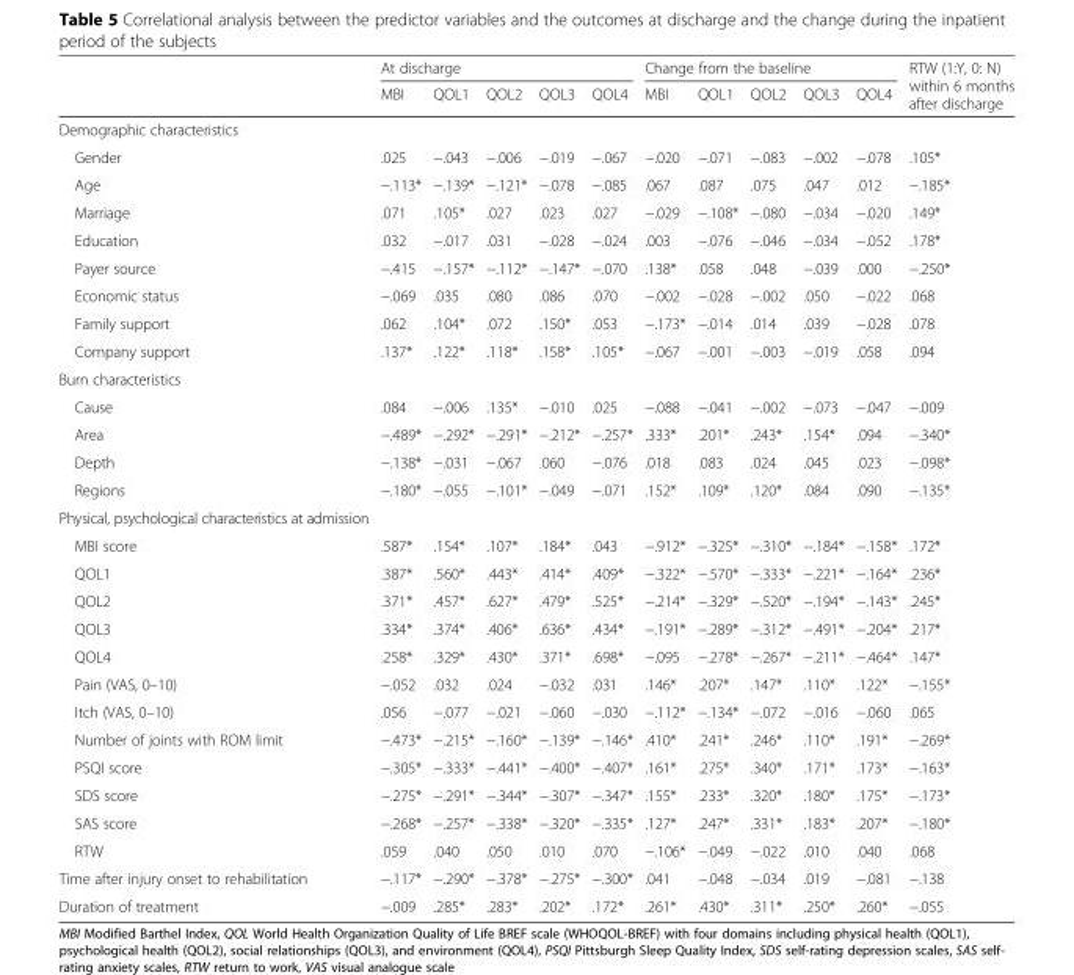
<table><thead><tr><td rowspan="2"></td><td colspan="5">At discharge</td><td colspan="5">Change from the baseline</td><td rowspan="2">RTW (1:Y, 0: N) within 6 months after discharge</td></tr><tr><td>MBI</td><td>QOL1</td><td>QOL2</td><td>QOL3</td><td>QOL4</td><td>MBI</td><td>QOL1</td><td>QOL2</td><td>QOL3</td><td>QOL4</td></tr></thead><tbody><tr><td colspan="12">Demographic characteristics</td></tr><tr><td>Gender</td><td>.025</td><td>−.043</td><td>−.006</td><td>−.019</td><td>−.067</td><td>−.020</td><td>−.071</td><td>−.083</td><td>−.002</td><td>−.078</td><td>.105*</td></tr><tr><td>Age</td><td>−.113*</td><td>−.139*</td><td>−.121*</td><td>−.078</td><td>−.085</td><td>.067</td><td>.087</td><td>.075</td><td>.047</td><td>.012</td><td>−.185*</td></tr><tr><td>Marriage</td><td>.071</td><td>.105*</td><td>.027</td><td>.023</td><td>.027</td><td>−.029</td><td>−.108*</td><td>−.080</td><td>−.034</td><td>−.020</td><td>.149*</td></tr><tr><td>Education</td><td>.032</td><td>−.017</td><td>.031</td><td>−.028</td><td>−.024</td><td>.003</td><td>−.076</td><td>−.046</td><td>−.034</td><td>−.052</td><td>.178*</td></tr><tr><td>Payer source</td><td>−.415</td><td>−.157*</td><td>−.112*</td><td>−.147*</td><td>−.070</td><td>.138*</td><td>.058</td><td>.048</td><td>−.039</td><td>.000</td><td>−.250*</td></tr><tr><td>Economic status</td><td>−.069</td><td>.035</td><td>.080</td><td>.086</td><td>.070</td><td>−.002</td><td>−.028</td><td>−.002</td><td>.050</td><td>−.022</td><td>.068</td></tr><tr><td>Family support</td><td>.062</td><td>.104*</td><td>.072</td><td>.150*</td><td>.053</td><td>−.173*</td><td>−.014</td><td>.014</td><td>.039</td><td>−.028</td><td>.078</td></tr><tr><td>Company support</td><td>.137*</td><td>.122*</td><td>.118*</td><td>.158*</td><td>.105*</td><td>−.067</td><td>−.001</td><td>−.003</td><td>−.019</td><td>.058</td><td>.094</td></tr><tr><td colspan="12">Burn characteristics</td></tr><tr><td>Cause</td><td>.084</td><td>−.006</td><td>.135*</td><td>−.010</td><td>.025</td><td>−.088</td><td>−.041</td><td>−.002</td><td>−.073</td><td>−.047</td><td>−.009</td></tr><tr><td>Area</td><td>−.489*</td><td>−.292*</td><td>−.291*</td><td>−.212*</td><td>−.257*</td><td>.333*</td><td>.201*</td><td>.243*</td><td>.154*</td><td>.094</td><td>−.340*</td></tr><tr><td>Depth</td><td>−.138*</td><td>−.031</td><td>−.067</td><td>.060</td><td>−.076</td><td>.018</td><td>.083</td><td>.024</td><td>.045</td><td>.023</td><td>−.098*</td></tr><tr><td>Regions</td><td>−.180*</td><td>−.055</td><td>−.101*</td><td>−.049</td><td>−.071</td><td>.152*</td><td>.109*</td><td>.120*</td><td>.084</td><td>.090</td><td>−.135*</td></tr><tr><td colspan="12">Physical, psychological characteristics at admission</td></tr><tr><td>MBI score</td><td>.587*</td><td>.154*</td><td>.107*</td><td>.184*</td><td>.043</td><td>−.912*</td><td>−.325*</td><td>−.310*</td><td>−.184*</td><td>−.158*</td><td>.172*</td></tr><tr><td>QOL1</td><td>.387*</td><td>.560*</td><td>.443*</td><td>.414*</td><td>.409*</td><td>−.322*</td><td>−.570*</td><td>−.333*</td><td>−.221*</td><td>−.164*</td><td>.236*</td></tr><tr><td>QOL2</td><td>.371*</td><td>.457*</td><td>.627*</td><td>.479*</td><td>.525*</td><td>−.214*</td><td>−.329*</td><td>−.520*</td><td>−.194*</td><td>−.143*</td><td>.245*</td></tr><tr><td>QOL3</td><td>.334*</td><td>.374*</td><td>.406*</td><td>.636*</td><td>.434*</td><td>−.191*</td><td>−.289*</td><td>−.312*</td><td>−.491*</td><td>−.204*</td><td>.217*</td></tr><tr><td>QOL4</td><td>.258*</td><td>.329*</td><td>.430*</td><td>.371*</td><td>.698*</td><td>−.095</td><td>−.278*</td><td>−.267*</td><td>−.211*</td><td>−.464*</td><td>.147*</td></tr><tr><td>Pain (VAS, 0–10)</td><td>−.052</td><td>.032</td><td>.024</td><td>−.032</td><td>.031</td><td>.146*</td><td>.207*</td><td>.147*</td><td>.110*</td><td>.122*</td><td>−.155*</td></tr><tr><td>Itch (VAS, 0–10)</td><td>.056</td><td>−.077</td><td>−.021</td><td>−.060</td><td>−.030</td><td>−.112*</td><td>−.134*</td><td>−.072</td><td>−.016</td><td>−.060</td><td>.065</td></tr><tr><td>Number of joints with ROM limit</td><td>−.473*</td><td>−.215*</td><td>−.160*</td><td>−.139*</td><td>−.146*</td><td>.410*</td><td>.241*</td><td>.246*</td><td>.110*</td><td>.191*</td><td>−.269*</td></tr><tr><td>PSQI score</td><td>−.305*</td><td>−.333*</td><td>−.441*</td><td>−.400*</td><td>−.407*</td><td>.161*</td><td>.275*</td><td>.340*</td><td>.171*</td><td>.173*</td><td>−.163*</td></tr><tr><td>SDS score</td><td>−.275*</td><td>−.291*</td><td>−.344*</td><td>−.307*</td><td>−.347*</td><td>.155*</td><td>.233*</td><td>.320*</td><td>.180*</td><td>.175*</td><td>−.173*</td></tr><tr><td>SAS score</td><td>−.268*</td><td>−.257*</td><td>−.338*</td><td>−.320*</td><td>−.335*</td><td>.127*</td><td>.247*</td><td>.331*</td><td>.183*</td><td>.207*</td><td>−.180*</td></tr><tr><td>RTW</td><td>.059</td><td>.040</td><td>.050</td><td>.010</td><td>.070</td><td>−.106*</td><td>−.049</td><td>−.022</td><td>.010</td><td>.040</td><td>.068</td></tr><tr><td>Time after injury onset to rehabilitation</td><td>−.117*</td><td>−.290*</td><td>−.378*</td><td>−.275*</td><td>−.300*</td><td>.041</td><td>−.048</td><td>−.034</td><td>.019</td><td>−.081</td><td>−.138</td></tr><tr><td>Duration of treatment</td><td>−.009</td><td>.285*</td><td>.283*</td><td>.202*</td><td>.172*</td><td>.261*</td><td>.430*</td><td>.311*</td><td>.250*</td><td>.260*</td><td>−.055</td></tr></tbody></table>